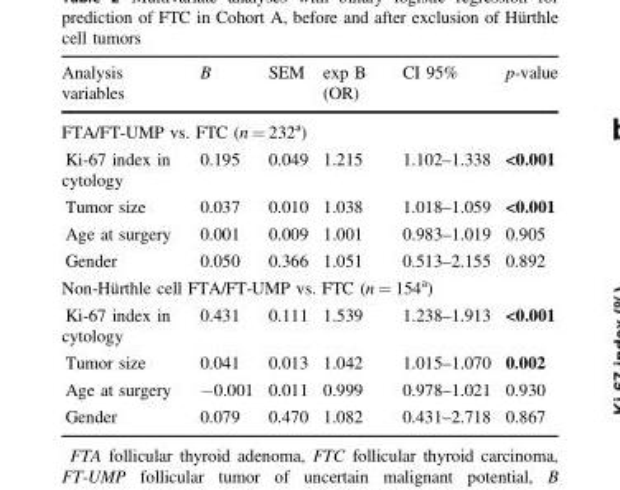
<table><thead><tr><td>Analysis variables</td><td>B</td><td>SEM</td><td>exp B (OR)</td><td>CI 95%</td><td>p-value</td></tr></thead><tbody><tr><td colspan="6">FTA/FT-UMP vs. FTC (n = 232<sup>a</sup>)</td></tr><tr><td>Ki-67 index in cytology</td><td>0.195</td><td>0.049</td><td>1.215</td><td>1.102–1.338</td><td>&lt;0.001</td></tr><tr><td>Tumor size</td><td>0.037</td><td>0.010</td><td>1.038</td><td>1.018–1.059</td><td>&lt;0.001</td></tr><tr><td>Age at surgery</td><td>0.001</td><td>0.009</td><td>1.001</td><td>0.983–1.019</td><td>0.905</td></tr><tr><td>Gender</td><td>0.050</td><td>0.366</td><td>1.051</td><td>0.513–2.155</td><td>0.892</td></tr><tr><td colspan="6">Non-Hürthle cell FTA/FT-UMP vs. FTC (n = 154<sup>a</sup>)</td></tr><tr><td>Ki-67 index in cytology</td><td>0.431</td><td>0.111</td><td>1.539</td><td>1.238–1.913</td><td>&lt;0.001</td></tr><tr><td>Tumor size</td><td>0.041</td><td>0.013</td><td>1.042</td><td>1.015–1.070</td><td>0.002</td></tr><tr><td>Age at surgery</td><td>−0.001</td><td>0.011</td><td>0.999</td><td>0.978–1.021</td><td>0.930</td></tr><tr><td>Gender</td><td>0.079</td><td>0.470</td><td>1.082</td><td>0.431–2.718</td><td>0.867</td></tr></tbody></table>